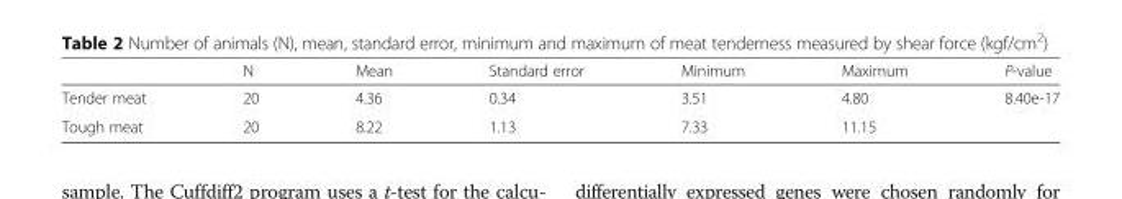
<table><thead><tr><td></td><td>N</td><td>Mean</td><td>Standard error</td><td>Minimum</td><td>Maximum</td><td>P-value</td></tr></thead><tbody><tr><td>Tender meat</td><td>20</td><td>4.36</td><td>0.34</td><td>3.51</td><td>4.80</td><td rowspan="2">8.40e-17</td></tr><tr><td>Tough meat</td><td>20</td><td>8.22</td><td>1.13</td><td>7.33</td><td>11.15</td></tr></tbody></table>